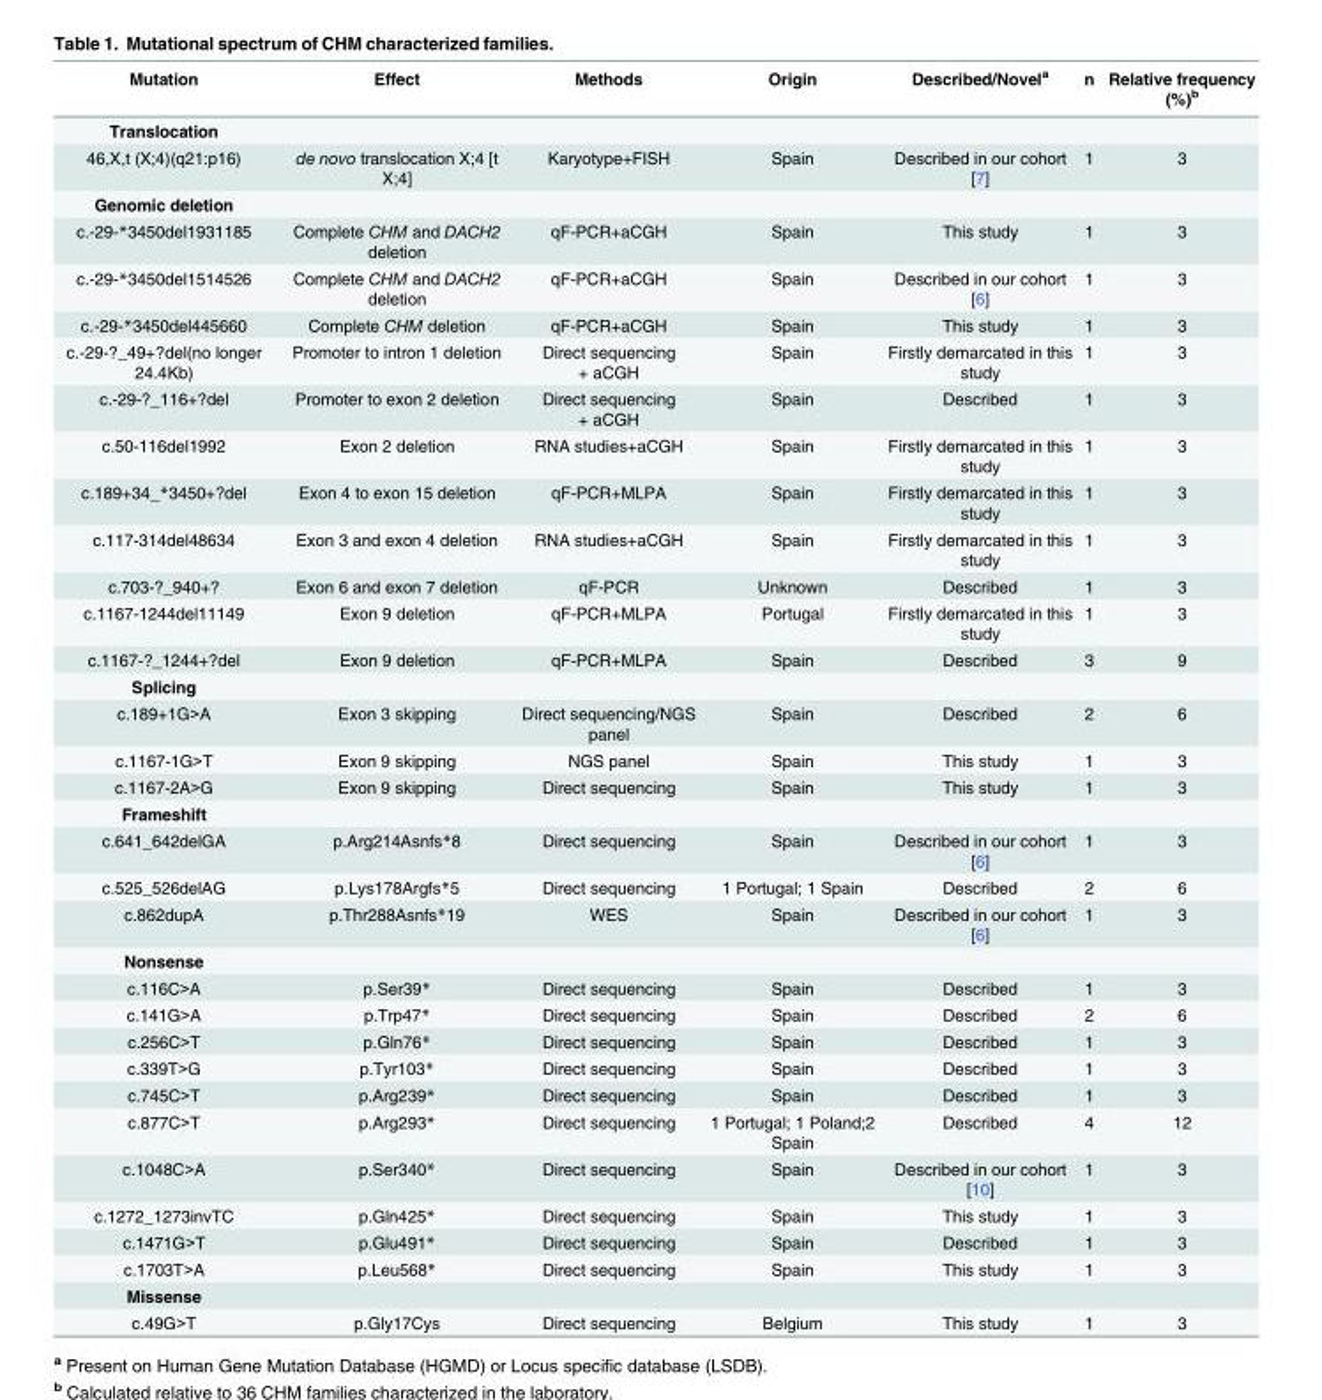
<table><thead><tr><td>Mutation</td><td>Effect</td><td>Methods</td><td>Origin</td><td>Described/Novel<sup>a</sup></td><td>n</td><td>Relative frequency (%)<sup>b</sup></td></tr></thead><tbody><tr><td colspan="7">Translocation</td></tr><tr><td>46,X,t (X;4)(q21:p16)</td><td>de novo translocation X;4 [t X;4]</td><td>Karyotype+FISH</td><td>Spain</td><td>Described in our cohort [7]</td><td>1</td><td>3</td></tr><tr><td colspan="7">Genomic deletion</td></tr><tr><td>c.-29-*3450del1931185</td><td>Complete CHM and DACH2 deletion</td><td>qF-PCR+aCGH</td><td>Spain</td><td>This study</td><td>1</td><td>3</td></tr><tr><td>c.-29-*3450del1514526</td><td>Complete CHM and DACH2 deletion</td><td>qF-PCR+aCGH</td><td>Spain</td><td>Described in our cohort [6]</td><td>1</td><td>3</td></tr><tr><td>c.-29-*3450del445660</td><td>Complete CHM deletion</td><td>qF-PCR+aCGH</td><td>Spain</td><td>This study</td><td>1</td><td>3</td></tr><tr><td>c.-29-?_49+?del(no longer 24.4Kb)</td><td>Promoter to intron 1 deletion</td><td>Direct sequencing + aCGH</td><td>Spain</td><td>Firstly demarcated in this study</td><td>1</td><td>3</td></tr><tr><td>c.-29-?_116+?del</td><td>Promoter to exon 2 deletion</td><td>Direct sequencing + aCGH</td><td>Spain</td><td>Described</td><td>1</td><td>3</td></tr><tr><td>c.50-116del1992</td><td>Exon 2 deletion</td><td>RNA studies+aCGH</td><td>Spain</td><td>Firstly demarcated in this study</td><td>1</td><td>3</td></tr><tr><td>c.189+34_*3450+?del</td><td>Exon 4 to exon 15 deletion</td><td>qF-PCR+MLPA</td><td>Spain</td><td>Firstly demarcated in this study</td><td>1</td><td>3</td></tr><tr><td>c.117-314del48634</td><td>Exon 3 and exon 4 deletion</td><td>RNA studies+aCGH</td><td>Spain</td><td>Firstly demarcated in this study</td><td>1</td><td>3</td></tr><tr><td>c.703-?_940+?</td><td>Exon 6 and exon 7 deletion</td><td>qF-PCR</td><td>Unknown</td><td>Described</td><td>1</td><td>3</td></tr><tr><td>c.1167-1244del11149</td><td>Exon 9 deletion</td><td>qF-PCR+MLPA</td><td>Portugal</td><td>Firstly demarcated in this study</td><td>1</td><td>3</td></tr><tr><td>c.1167-?_1244+?del</td><td>Exon 9 deletion</td><td>qF-PCR+MLPA</td><td>Spain</td><td>Described</td><td>3</td><td>9</td></tr><tr><td colspan="7">Splicing</td></tr><tr><td>c.189+1G&gt;A</td><td>Exon 3 skipping</td><td>Direct sequencing/NGS panel</td><td>Spain</td><td>Described</td><td>2</td><td>6</td></tr><tr><td>c.1167-1G&gt;T</td><td>Exon 9 skipping</td><td>NGS panel</td><td>Spain</td><td>This study</td><td>1</td><td>3</td></tr><tr><td>c.1167-2A&gt;G</td><td>Exon 9 skipping</td><td>Direct sequencing</td><td>Spain</td><td>This study</td><td>1</td><td>3</td></tr><tr><td colspan="7">Frameshift</td></tr><tr><td>c.641_642delGA</td><td>p.Arg214Asnfs*8</td><td>Direct sequencing</td><td>Spain</td><td>Described in our cohort [6]</td><td>1</td><td>3</td></tr><tr><td>c.525_526delAG</td><td>p.Lys178Argfs*5</td><td>Direct sequencing</td><td>1 Portugal; 1 Spain</td><td>Described</td><td>2</td><td>6</td></tr><tr><td>c.862dupA</td><td>p.Thr288Asnfs*19</td><td>WES</td><td>Spain</td><td>Described in our cohort [6]</td><td>1</td><td>3</td></tr><tr><td colspan="7">Nonsense</td></tr><tr><td>c.116C&gt;A</td><td>p.Ser39*</td><td>Direct sequencing</td><td>Spain</td><td>Described</td><td>1</td><td>3</td></tr><tr><td>c.141G&gt;A</td><td>p.Trp47*</td><td>Direct sequencing</td><td>Spain</td><td>Described</td><td>2</td><td>6</td></tr><tr><td>c.256C&gt;T</td><td>p.Gln76*</td><td>Direct sequencing</td><td>Spain</td><td>Described</td><td>1</td><td>3</td></tr><tr><td>c.339T&gt;G</td><td>p.Tyr103*</td><td>Direct sequencing</td><td>Spain</td><td>Described</td><td>1</td><td>3</td></tr><tr><td>c.745C&gt;T</td><td>p.Arg239*</td><td>Direct sequencing</td><td>Spain</td><td>Described</td><td>1</td><td>3</td></tr><tr><td>c.877C&gt;T</td><td>p.Arg293*</td><td>Direct sequencing</td><td>1 Portugal; 1 Poland;2 Spain</td><td>Described</td><td>4</td><td>12</td></tr><tr><td>c.1048C&gt;A</td><td>p.Ser340*</td><td>Direct sequencing</td><td>Spain</td><td>Described in our cohort [10]</td><td>1</td><td>3</td></tr><tr><td>c.1272_1273invTC</td><td>p.Gln425*</td><td>Direct sequencing</td><td>Spain</td><td>This study</td><td>1</td><td>3</td></tr><tr><td>c.1471G&gt;T</td><td>p.Glu491*</td><td>Direct sequencing</td><td>Spain</td><td>Described</td><td>1</td><td>3</td></tr><tr><td>c.1703T&gt;A</td><td>p.Leu568*</td><td>Direct sequencing</td><td>Spain</td><td>This study</td><td>1</td><td>3</td></tr><tr><td colspan="7">Missense</td></tr><tr><td>c.49G&gt;T</td><td>p.Gly17Cys</td><td>Direct sequencing</td><td>Belgium</td><td>This study</td><td>1</td><td>3</td></tr></tbody></table>